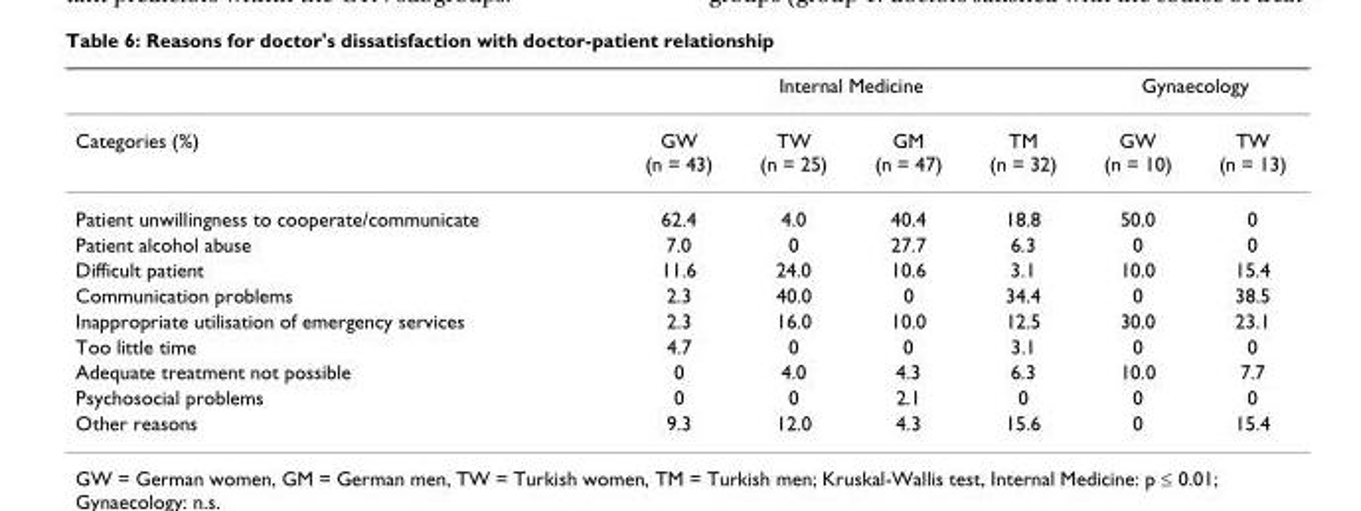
<table><thead><tr><td rowspan="2">Categories (%)</td><td colspan="4">Internal Medicine</td><td colspan="2">Gynaecology</td></tr><tr><td>GW (n = 43)</td><td>TW (n = 25)</td><td>GM (n = 47)</td><td>TM (n = 32)</td><td>GW (n = 10)</td><td>TW (n = 13)</td></tr></thead><tbody><tr><td>Patient unwillingness to cooperate/communicate</td><td>62.4</td><td>4.0</td><td>40.4</td><td>18.8</td><td>50.0</td><td>0</td></tr><tr><td>Patient alcohol abuse</td><td>7.0</td><td>0</td><td>27.7</td><td>6.3</td><td>0</td><td>0</td></tr><tr><td>Difficult patient</td><td>11.6</td><td>24.0</td><td>10.6</td><td>3.1</td><td>10.0</td><td>15.4</td></tr><tr><td>Communication problems</td><td>2.3</td><td>40.0</td><td>0</td><td>34.4</td><td>0</td><td>38.5</td></tr><tr><td>Inappropriate utilisation of emergency services</td><td>2.3</td><td>16.0</td><td>10.0</td><td>12.5</td><td>30.0</td><td>23.1</td></tr><tr><td>Too little time</td><td>4.7</td><td>0</td><td>0</td><td>3.1</td><td>0</td><td>0</td></tr><tr><td>Adequate treatment not possible</td><td>0</td><td>4.0</td><td>4.3</td><td>6.3</td><td>10.0</td><td>7.7</td></tr><tr><td>Psychosocial problems</td><td>0</td><td>0</td><td>2.1</td><td>0</td><td>0</td><td>0</td></tr><tr><td>Other reasons</td><td>9.3</td><td>12.0</td><td>4.3</td><td>15.6</td><td>0</td><td>15.4</td></tr></tbody></table>